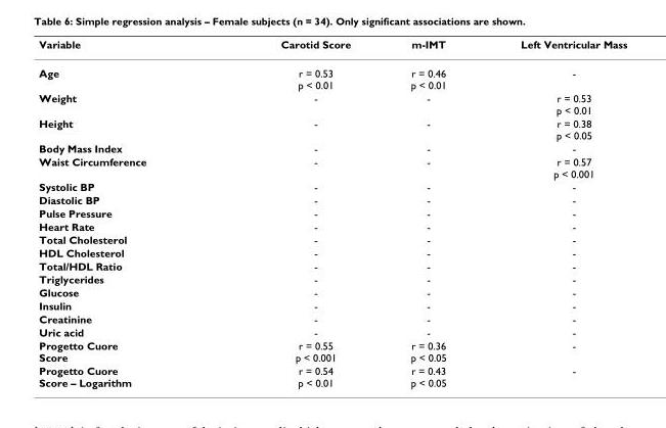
<table><thead><tr><td>Variable</td><td>Carotid Score</td><td>m-IMT</td><td>Left Ventricular Mass</td></tr></thead><tbody><tr><td>Age</td><td>r = 0.53 p &lt; 0.01</td><td>r = 0.46 p &lt; 0.01</td><td>-</td></tr><tr><td>Weight</td><td>-</td><td>-</td><td>r = 0.53 p &lt; 0.01</td></tr><tr><td>Height</td><td>-</td><td>-</td><td>r = 0.38 p &lt; 0.05</td></tr><tr><td>Body Mass Index</td><td>-</td><td>-</td><td>-</td></tr><tr><td>Waist Circumference</td><td>-</td><td>-</td><td>r = 0.57 p &lt; 0.001</td></tr><tr><td>Systolic BP</td><td>-</td><td>-</td><td>-</td></tr><tr><td>Diastolic BP</td><td>-</td><td>-</td><td>-</td></tr><tr><td>Pulse Pressure</td><td>-</td><td>-</td><td>-</td></tr><tr><td>Heart Rate</td><td>-</td><td>-</td><td>-</td></tr><tr><td>Total Cholesterol</td><td>-</td><td>-</td><td>-</td></tr><tr><td>HDL Cholesterol</td><td>-</td><td>-</td><td>-</td></tr><tr><td>Total/HDL Ratio</td><td>-</td><td>-</td><td>-</td></tr><tr><td>Triglycerides</td><td>-</td><td>-</td><td>-</td></tr><tr><td>Glucose</td><td>-</td><td>-</td><td>-</td></tr><tr><td>Insulin</td><td>-</td><td>-</td><td>-</td></tr><tr><td>Creatinine</td><td>-</td><td>-</td><td>-</td></tr><tr><td>Uric acid</td><td>-</td><td>-</td><td>-</td></tr><tr><td>Progetto Cuore Score</td><td>r = 0.55 p &lt; 0.001</td><td>r = 0.36 p &lt; 0.05</td><td>-</td></tr><tr><td>Progetto Cuore Score – Logarithm</td><td>r = 0.54 p &lt; 0.01</td><td>r = 0.43 p &lt; 0.05</td><td>-</td></tr></tbody></table>